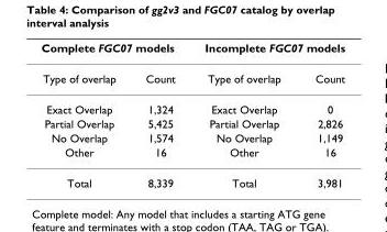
<table><thead><tr><td colspan="2">Complete FGC07 models</td><td colspan="2">Incomplete FGC07 models</td></tr><tr><td>Type of overlap</td><td>Count</td><td>Type of overlap</td><td>Count</td></tr></thead><tbody><tr><td>Exact Overlap</td><td>1,324</td><td>Exact Overlap</td><td>0</td></tr><tr><td>Partial Overlap</td><td>5,425</td><td>Partial Overlap</td><td>2,826</td></tr><tr><td>No Overlap</td><td>1,574</td><td>No Overlap</td><td>1,149</td></tr><tr><td>Other</td><td>16</td><td>Other</td><td>16</td></tr><tr><td>Total</td><td>8,339</td><td>Total</td><td>3,981</td></tr></tbody></table>